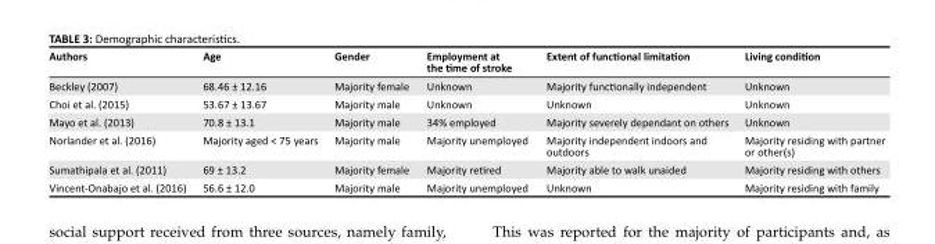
<table><thead><tr><td>Authors</td><td>Age</td><td>Gender</td><td>Employment at the time of stroke</td><td>Extent of functional limitation</td><td>Living condition</td></tr></thead><tbody><tr><td>Beckley (2007)</td><td>68.46 ± 12.16</td><td>Majority female</td><td>Unknown</td><td>Majority functionally independent</td><td>Unknown</td></tr><tr><td>Choi et al. (2015)</td><td>53.67 ± 13.67</td><td>Majority male</td><td>Unknown</td><td>Unknown</td><td>Unknown</td></tr><tr><td>Mayo et al. (2013)</td><td>70.8 ± 13.1</td><td>Majority male</td><td>34% employed</td><td>Majority severely dependant on others</td><td>Unknown</td></tr><tr><td>Norlander et al. (2016)</td><td>Majority aged &lt; 75 years</td><td>Majority male</td><td>Majority unemployed</td><td>Majority independent indoors and outdoors</td><td>Majority residing with partner or other(s)</td></tr><tr><td>Sumathipala et al. (2011)</td><td>69 ± 13.2</td><td>Majority female</td><td>Majority retired</td><td>Majority able to walk unaided</td><td>Majority residing with others</td></tr><tr><td>Vincent-Onabajo et al. (2016)</td><td>56.6 ± 12.0</td><td>Majority male</td><td>Majority unemployed</td><td>Unknown</td><td>Majority residing with family</td></tr></tbody></table>